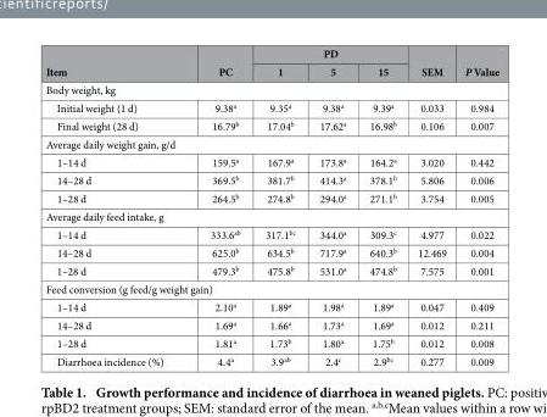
<table><thead><tr><td rowspan="2">Item</td><td rowspan="2">PC</td><td colspan="3">PD</td><td rowspan="2">SEM</td><td rowspan="2">P Value</td></tr><tr><td>1</td><td>5</td><td>15</td></tr></thead><tbody><tr><td colspan="7">Body weight, kg</td></tr><tr><td>Initial weight (1 d)</td><td>9.38<sup>a</sup></td><td>9.35<sup>a</sup></td><td>9.38<sup>a</sup></td><td>9.39<sup>a</sup></td><td>0.033</td><td>0.984</td></tr><tr><td>Final weight (28 d)</td><td>16.79<sup>b</sup></td><td>17.04<sup>b</sup></td><td>17.62<sup>a</sup></td><td>16.98<sup>b</sup></td><td>0.106</td><td>0.007</td></tr><tr><td colspan="7">Average daily weight gain, g/d</td></tr><tr><td>1–14 d</td><td>159.5<sup>a</sup></td><td>167.9<sup>a</sup></td><td>173.8<sup>a</sup></td><td>164.2<sup>a</sup></td><td>3.020</td><td>0.442</td></tr><tr><td>14–28 d</td><td>369.5<sup>b</sup></td><td>381.7<sup>b</sup></td><td>414.3<sup>a</sup></td><td>378.1<sup>b</sup></td><td>5.806</td><td>0.006</td></tr><tr><td>1–28 d</td><td>264.5<sup>b</sup></td><td>274.8<sup>b</sup></td><td>294.0<sup>a</sup></td><td>271.1<sup>b</sup></td><td>3.754</td><td>0.005</td></tr><tr><td colspan="7">Average daily feed intake, g</td></tr><tr><td>1–14 d</td><td>333.6<sup>ab</sup></td><td>317.1<sup>bc</sup></td><td>344.0<sup>a</sup></td><td>309.3<sup>c</sup></td><td>4.977</td><td>0.022</td></tr><tr><td>14–28 d</td><td>625.0<sup>b</sup></td><td>634.5<sup>b</sup></td><td>717.9<sup>a</sup></td><td>640.3<sup>b</sup></td><td>12.469</td><td>0.004</td></tr><tr><td>1–28 d</td><td>479.3<sup>b</sup></td><td>475.8<sup>b</sup></td><td>531.0<sup>a</sup></td><td>474.8<sup>b</sup></td><td>7.575</td><td>0.001</td></tr><tr><td colspan="7">Feed conversion (g feed/g weight gain)</td></tr><tr><td>1–14 d</td><td>2.10<sup>a</sup></td><td>1.89<sup>a</sup></td><td>1.98<sup>a</sup></td><td>1.89<sup>a</sup></td><td>0.047</td><td>0.409</td></tr><tr><td>14–28 d</td><td>1.69<sup>a</sup></td><td>1.66<sup>a</sup></td><td>1.73<sup>a</sup></td><td>1.69<sup>a</sup></td><td>0.012</td><td>0.211</td></tr><tr><td>1–28 d</td><td>1.81<sup>a</sup></td><td>1.73<sup>b</sup></td><td>1.80<sup>a</sup></td><td>1.75<sup>b</sup></td><td>0.012</td><td>0.008</td></tr><tr><td>Diarrhoea incidence (%)</td><td>4.4<sup>a</sup></td><td>3.9<sup>ab</sup></td><td>2.4<sup>c</sup></td><td>2.9<sup>bc</sup></td><td>0.277</td><td>0.009</td></tr></tbody></table>